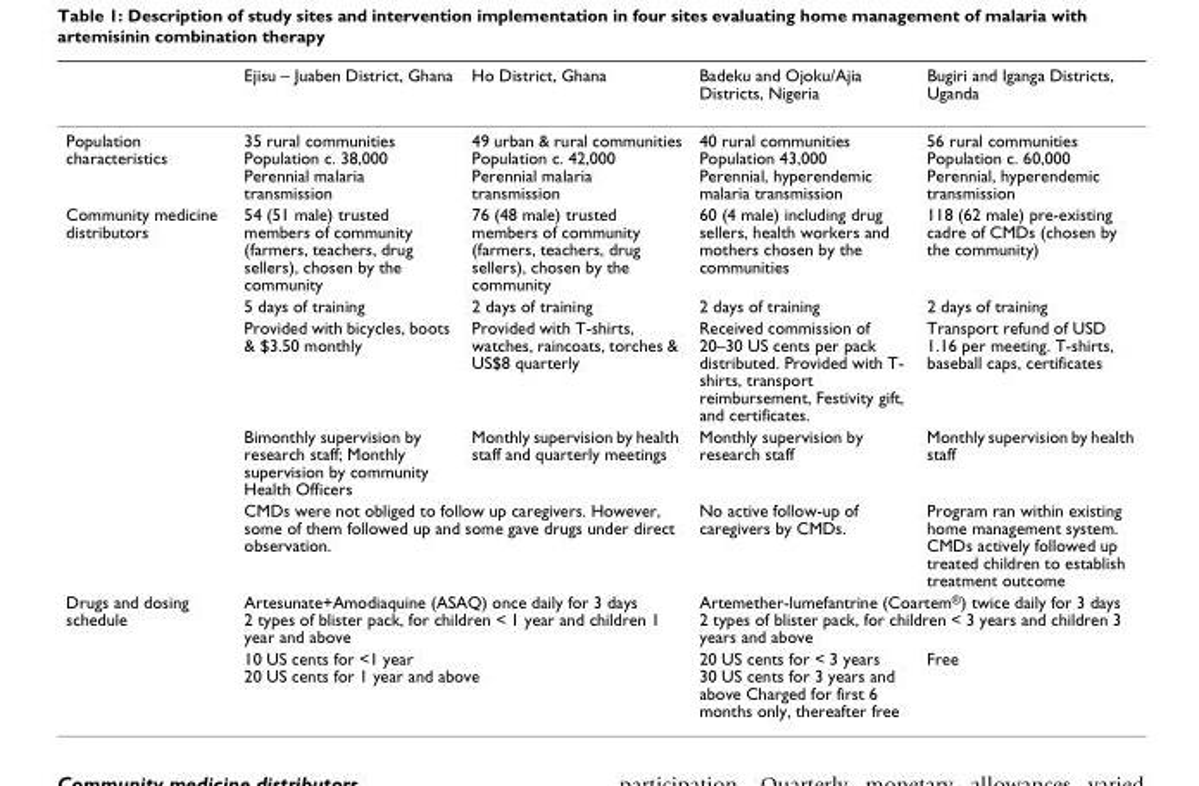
<table><thead><tr><td></td><td>Ejisu – Juaben District, Ghana</td><td>Ho District, Ghana</td><td>Badeku and Ojoku/Ajia Districts, Nigeria</td><td>Bugiri and Iganga Districts, Uganda</td></tr></thead><tbody><tr><td>Population characteristics</td><td>35 rural communities Population c. 38,000 Perennial malaria transmission</td><td>49 urban &amp; rural communities Population c. 42,000 Perennial malaria transmission</td><td>40 rural communities Population 43,000 Perennial, hyperendemic malaria transmission</td><td>56 rural communities Population c. 60,000 Perennial, hyperendemic transmission</td></tr><tr><td rowspan="5">Community medicine distributors</td><td>54 (51 male) trusted members of community (farmers, teachers, drug sellers), chosen by the community</td><td>76 (48 male) trusted members of community (farmers, teachers, drug sellers), chosen by the community</td><td>60 (4 male) including drug sellers, health workers and mothers chosen by the communities</td><td>118 (62 male) pre-existing cadre of CMDs (chosen by the community)</td></tr><tr><td>5 days of training</td><td>2 days of training</td><td>2 days of training</td><td>2 days of training</td></tr><tr><td>Provided with bicycles, boots &amp; $3.50 monthly</td><td>Provided with T-shirts, watches, raincoats, torches &amp; US$8 quarterly</td><td>Received commission of 20–30 US cents per pack distributed. Provided with T- shirts, transport reimbursement, Festivity gift, and certificates.</td><td>Transport refund of USD 1.16 per meeting. T-shirts, baseball caps, certificates</td></tr><tr><td>Bimonthly supervision by research staff; Monthly supervision by community Health Officers</td><td>Monthly supervision by health staff and quarterly meetings</td><td>Monthly supervision by research staff</td><td>Monthly supervision by health staff</td></tr><tr><td colspan="2">CMDs were not obliged to follow up caregivers. However, some of them followed up and some gave drugs under direct observation.</td><td>No active follow-up of caregivers by CMDs.</td><td>Program ran within existing home management system. CMDs actively followed up treated children to establish treatment outcome</td></tr><tr><td rowspan="2">Drugs and dosing schedule</td><td colspan="2">Artesunate+Amodiaquine (ASAQ) once daily for 3 days 2 types of blister pack, for children &lt; 1 year and children 1 year and above</td><td colspan="2">Artemether-lumefantrine (Coartem<sup>®</sup>) twice daily for 3 days 2 types of blister pack, for children &lt; 3 years and children 3 years and above</td></tr><tr><td colspan="2">10 US cents for &lt;1 year 20 US cents for 1 year and above</td><td>20 US cents for &lt; 3 years 30 US cents for 3 years and above Charged for first 6 months only, thereafter free</td><td>Free</td></tr></tbody></table>